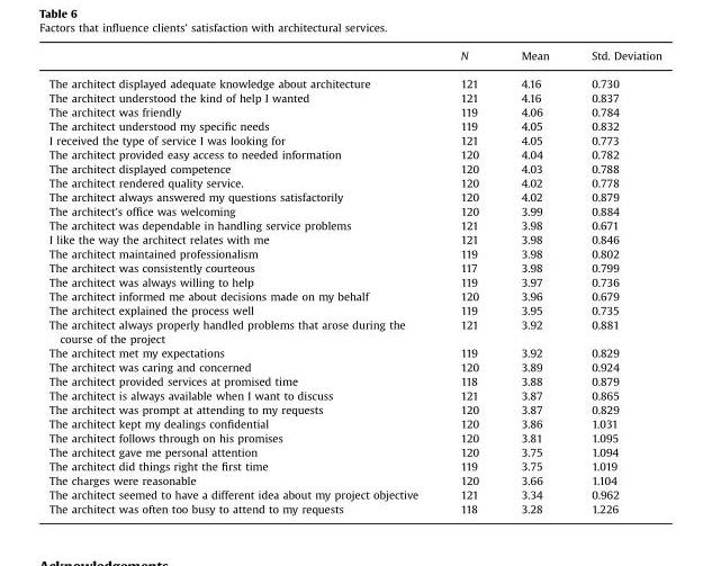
<table><thead><tr><td></td><td>N</td><td>Mean</td><td>Std. Deviation</td></tr></thead><tbody><tr><td>The architect displayed adequate knowledge about architecture</td><td>121</td><td>4.16</td><td>0.730</td></tr><tr><td>The architect understood the kind of help I wanted</td><td>121</td><td>4.16</td><td>0.837</td></tr><tr><td>The architect was friendly</td><td>119</td><td>4.06</td><td>0.784</td></tr><tr><td>The architect understood my specific needs</td><td>119</td><td>4.05</td><td>0.832</td></tr><tr><td>I received the type of service I was looking for</td><td>121</td><td>4.05</td><td>0.773</td></tr><tr><td>The architect provided easy access to needed information</td><td>120</td><td>4.04</td><td>0.782</td></tr><tr><td>The architect displayed competence</td><td>120</td><td>4.03</td><td>0.788</td></tr><tr><td>The architect rendered quality service.</td><td>120</td><td>4.02</td><td>0.778</td></tr><tr><td>The architect always answered my questions satisfactorily</td><td>120</td><td>4.02</td><td>0.879</td></tr><tr><td>The architect&#x27;s office was welcoming</td><td>120</td><td>3.99</td><td>0.884</td></tr><tr><td>The architect was dependable in handling service problems</td><td>121</td><td>3.98</td><td>0.671</td></tr><tr><td>I like the way the architect relates with me</td><td>121</td><td>3.98</td><td>0.846</td></tr><tr><td>The architect maintained professionalism</td><td>119</td><td>3.98</td><td>0.802</td></tr><tr><td>The architect was consistently courteous</td><td>117</td><td>3.98</td><td>0.799</td></tr><tr><td>The architect was always willing to help</td><td>119</td><td>3.97</td><td>0.736</td></tr><tr><td>The architect informed me about decisions made on my behalf</td><td>120</td><td>3.96</td><td>0.679</td></tr><tr><td>The architect explained the process well</td><td>119</td><td>3.95</td><td>0.735</td></tr><tr><td>The architect always properly handled problems that arose during the course of the project</td><td>121</td><td>3.92</td><td>0.881</td></tr><tr><td>The architect met my expectations</td><td>119</td><td>3.92</td><td>0.829</td></tr><tr><td>The architect was caring and concerned</td><td>120</td><td>3.89</td><td>0.924</td></tr><tr><td>The architect provided services at promised time</td><td>118</td><td>3.88</td><td>0.879</td></tr><tr><td>The architect is always available when I want to discuss</td><td>121</td><td>3.87</td><td>0.865</td></tr><tr><td>The architect was prompt at attending to my requests</td><td>120</td><td>3.87</td><td>0.829</td></tr><tr><td>The architect kept my dealings confidential</td><td>120</td><td>3.86</td><td>1.031</td></tr><tr><td>The architect follows through on his promises</td><td>120</td><td>3.81</td><td>1.095</td></tr><tr><td>The architect gave me personal attention</td><td>120</td><td>3.75</td><td>1.094</td></tr><tr><td>The architect did things right the first time</td><td>119</td><td>3.75</td><td>1.019</td></tr><tr><td>The charges were reasonable</td><td>120</td><td>3.66</td><td>1.104</td></tr><tr><td>The architect seemed to have a different idea about my project objective</td><td>121</td><td>3.34</td><td>0.962</td></tr><tr><td>The architect was often too busy to attend to my requests</td><td>118</td><td>3.28</td><td>1.226</td></tr></tbody></table>